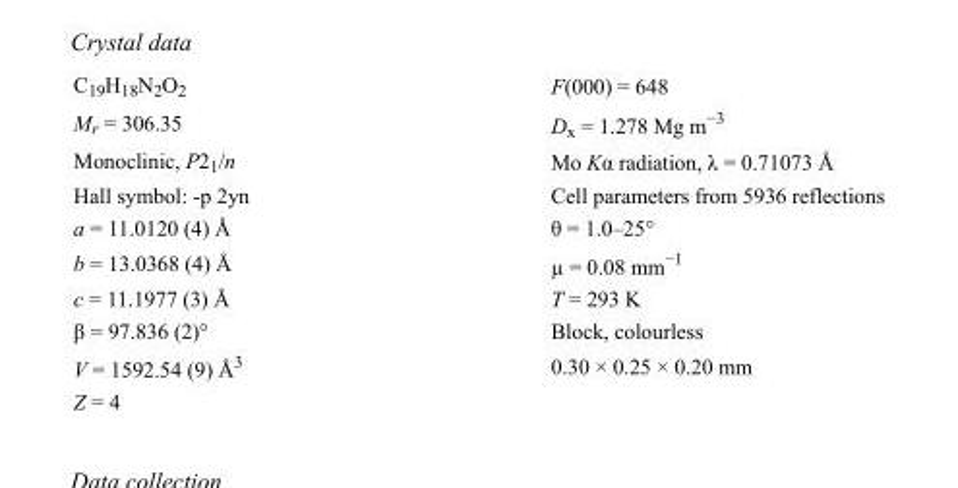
<table><tbody><tr><td>C<sub>19</sub>H<sub>18</sub>N<sub>2</sub>O<sub>2</sub></td><td>F(000) = 648</td></tr><tr><td>M<sub>r</sub> = 306.35</td><td>D<sub>x</sub> = 1.278 Mg m<sup>−3</sup></td></tr><tr><td>Monoclinic, P2<sub>1</sub>/n</td><td>Mo Kα radiation, λ = 0.71073 Å</td></tr><tr><td>Hall symbol: -p 2yn</td><td>Cell parameters from 5936 reflections</td></tr><tr><td>a = 11.0120 (4) Å</td><td>θ = 1.0–25°</td></tr><tr><td>b = 13.0368 (4) Å</td><td>µ = 0.08 mm<sup>−1</sup></td></tr><tr><td>c = 11.1977 (3) Å</td><td>T = 293 K</td></tr><tr><td>β = 97.836 (2)°</td><td>Block, colourless</td></tr><tr><td>V = 1592.54 (9) Å<sup>3</sup></td><td>0.30 × 0.25 × 0.20 mm</td></tr><tr><td>Z = 4</td><td></td></tr></tbody></table>